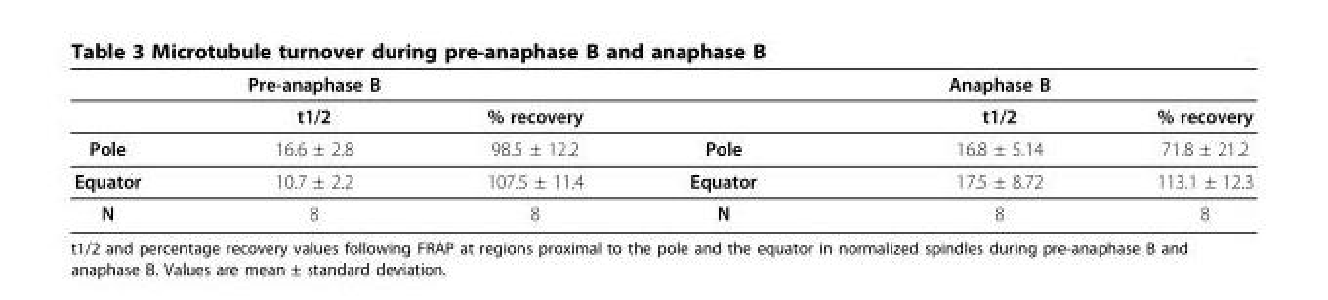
<table><thead><tr><td></td><td>Pre-anaphase B</td><td></td><td></td><td>Anaphase B</td><td></td></tr></thead><tbody><tr><td></td><td>t1/2</td><td>% recovery</td><td></td><td>t1/2</td><td>% recovery</td></tr><tr><td>Pole</td><td>16.6 ± 2.8</td><td>98.5 ± 12.2</td><td>Pole</td><td>16.8 ± 5.14</td><td>71.8 ± 21.2</td></tr><tr><td>Equator</td><td>10.7 ± 2.2</td><td>107.5 ± 11.4</td><td>Equator</td><td>17.5 ± 8.72</td><td>113.1 ± 12.3</td></tr><tr><td>N</td><td>8</td><td>8</td><td>N</td><td>8</td><td>8</td></tr></tbody></table>